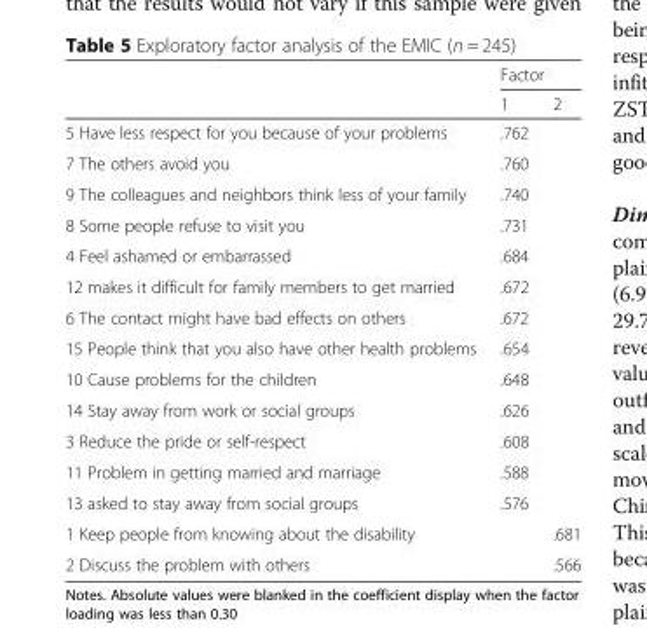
<table><thead><tr><td rowspan="2"></td><td colspan="2">Factor</td></tr><tr><td>1</td><td>2</td></tr></thead><tbody><tr><td>5 Have less respect for you because of your problems</td><td>.762</td><td></td></tr><tr><td>7 The others avoid you</td><td>.760</td><td></td></tr><tr><td>9 The colleagues and neighbors think less of your family</td><td>.740</td><td></td></tr><tr><td>8 Some people refuse to visit you</td><td>.731</td><td></td></tr><tr><td>4 Feel ashamed or embarrassed</td><td>.684</td><td></td></tr><tr><td>12 makes it difficult for family members to get married</td><td>.672</td><td></td></tr><tr><td>6 The contact might have bad effects on others</td><td>.672</td><td></td></tr><tr><td>15 People think that you also have other health problems</td><td>.654</td><td></td></tr><tr><td>10 Cause problems for the children</td><td>.648</td><td></td></tr><tr><td>14 Stay away from work or social groups</td><td>.626</td><td></td></tr><tr><td>3 Reduce the pride or self-respect</td><td>.608</td><td></td></tr><tr><td>11 Problem in getting married and marriage</td><td>.588</td><td></td></tr><tr><td>13 asked to stay away from social groups</td><td>.576</td><td></td></tr><tr><td>1 Keep people from knowing about the disability</td><td></td><td>.681</td></tr><tr><td>2 Discuss the problem with others</td><td></td><td>.566</td></tr></tbody></table>